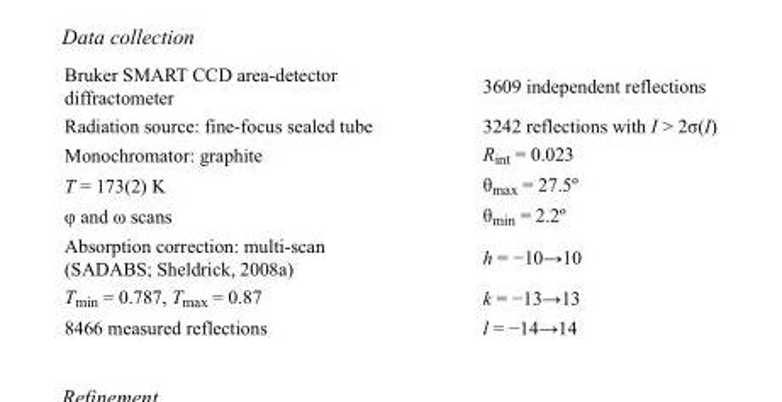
<table><tbody><tr><td>Bruker SMART CCD area-detector diffractometer</td><td>3609 independent reflections</td></tr><tr><td>Radiation source: fine-focus sealed tube</td><td>3242 reflections with I &gt; 2σ(I)</td></tr><tr><td>Monochromator: graphite</td><td>R<sub>int</sub> = 0.023</td></tr><tr><td>T = 173(2) K</td><td>θ<sub>max</sub> = 27.5º</td></tr><tr><td>φ and ω scans</td><td>θ<sub>min</sub> = 2.2º</td></tr><tr><td>Absorption correction: multi-scan (SADABS; Sheldrick, 2008a)</td><td>h = −10→10</td></tr><tr><td>T<sub>min</sub> = 0.787, T<sub>max</sub> = 0.87</td><td>k = −13→13</td></tr><tr><td>8466 measured reflections</td><td>l = −14→14</td></tr></tbody></table>